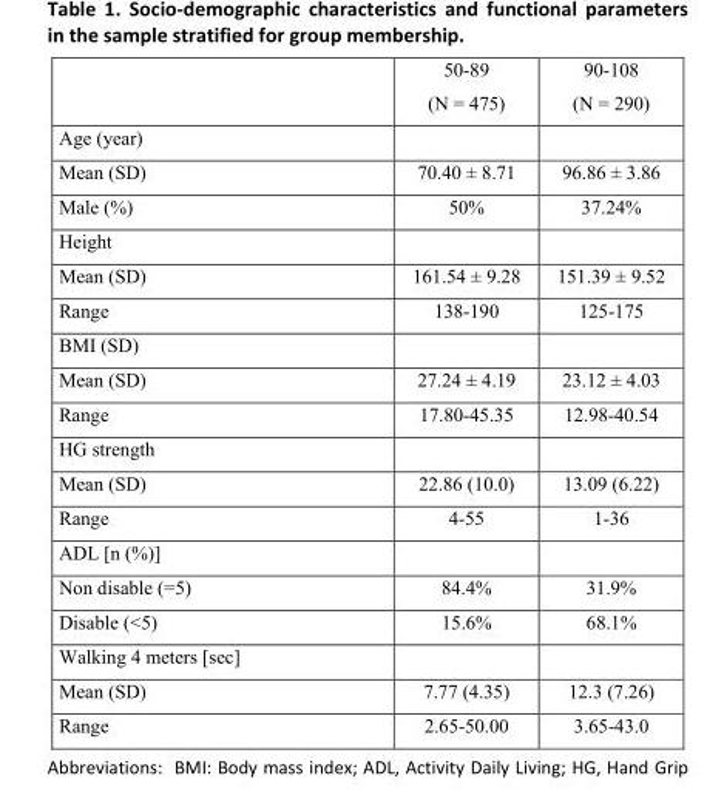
<table><thead><tr><td></td><td>50-89 (N = 475)</td><td>90-108 (N = 290)</td></tr></thead><tbody><tr><td colspan="3">Age (year)</td></tr><tr><td>Mean (SD)</td><td>70.40 ± 8.71</td><td>96.86 ± 3.86</td></tr><tr><td>Male (%)</td><td>50%</td><td>37.24%</td></tr><tr><td colspan="3">Height</td></tr><tr><td>Mean (SD)</td><td>161.54 ± 9.28</td><td>151.39 ± 9.52</td></tr><tr><td>Range</td><td>138-190</td><td>125-175</td></tr><tr><td colspan="3">BMI (SD)</td></tr><tr><td>Mean (SD)</td><td>27.24 ± 4.19</td><td>23.12 ± 4.03</td></tr><tr><td>Range</td><td>17.80-45.35</td><td>12.98-40.54</td></tr><tr><td colspan="3">HG strength</td></tr><tr><td>Mean (SD)</td><td>22.86 (10.0)</td><td>13.09 (6.22)</td></tr><tr><td>Range</td><td>4-55</td><td>1-36</td></tr><tr><td colspan="3">ADL [n (%)]</td></tr><tr><td>Non disable (=5)</td><td>84.4%</td><td>31.9%</td></tr><tr><td>Disable (&lt;5)</td><td>15.6%</td><td>68.1%</td></tr><tr><td colspan="3">Walking 4 meters [sec]</td></tr><tr><td>Mean (SD)</td><td>7.77 (4.35)</td><td>12.3 (7.26)</td></tr><tr><td>Range</td><td>2.65-50.00</td><td>3.65-43.0</td></tr></tbody></table>